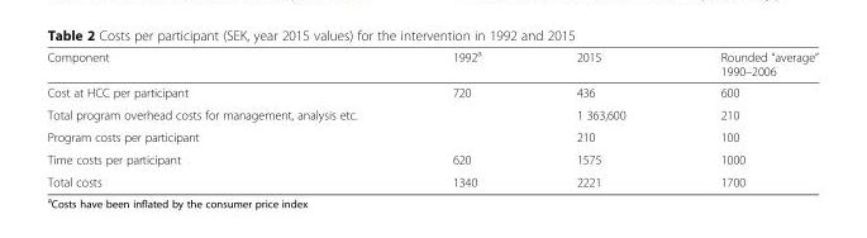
<table><thead><tr><td>Component</td><td>1992<sup>a</sup></td><td>2015</td><td>Rounded “average” 1990–2006</td></tr></thead><tbody><tr><td>Cost at HCC per participant</td><td>720</td><td>436</td><td>600</td></tr><tr><td>Total program overhead costs for management, analysis etc.</td><td></td><td>1 363,600</td><td>210</td></tr><tr><td>Program costs per participant</td><td></td><td>210</td><td>100</td></tr><tr><td>Time costs per participant</td><td>620</td><td>1575</td><td>1000</td></tr><tr><td>Total costs</td><td>1340</td><td>2221</td><td>1700</td></tr></tbody></table>